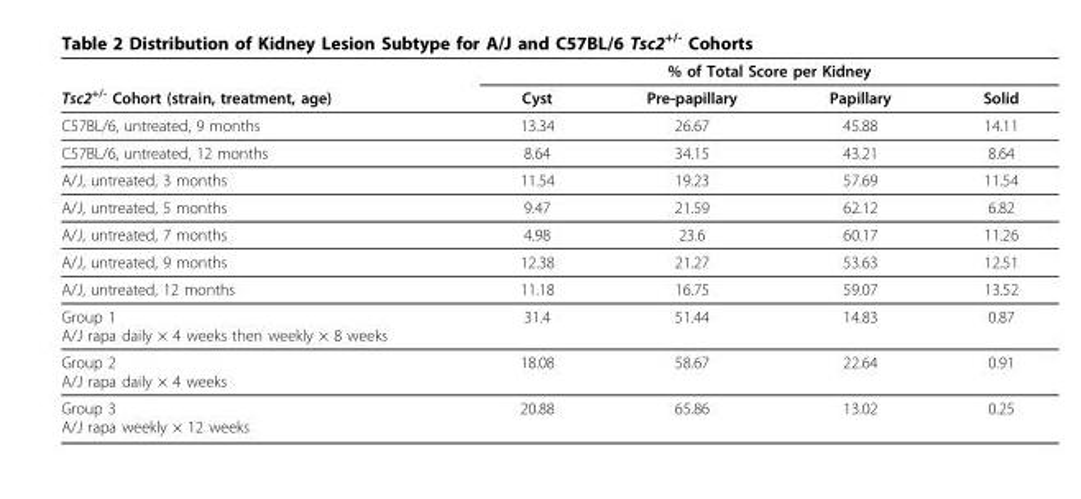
<table><thead><tr><td rowspan="2">Tsc2<sup>+/-</sup> Cohort (strain, treatment, age)</td><td colspan="4">% of Total Score per Kidney</td></tr><tr><td>Cyst</td><td>Pre-papillary</td><td>Papillary</td><td>Solid</td></tr></thead><tbody><tr><td>C57BL/6, untreated, 9 months</td><td>13.34</td><td>26.67</td><td>45.88</td><td>14.11</td></tr><tr><td>C57BL/6, untreated, 12 months</td><td>8.64</td><td>34.15</td><td>43.21</td><td>8.64</td></tr><tr><td>A/J, untreated, 3 months</td><td>11.54</td><td>19.23</td><td>57.69</td><td>11.54</td></tr><tr><td>A/J, untreated, 5 months</td><td>9.47</td><td>21.59</td><td>62.12</td><td>6.82</td></tr><tr><td>A/J, untreated, 7 months</td><td>4.98</td><td>23.6</td><td>60.17</td><td>11.26</td></tr><tr><td>A/J, untreated, 9 months</td><td>12.38</td><td>21.27</td><td>53.63</td><td>12.51</td></tr><tr><td>A/J, untreated, 12 months</td><td>11.18</td><td>16.75</td><td>59.07</td><td>13.52</td></tr><tr><td>Group 1 A/J rapa daily × 4 weeks then weekly × 8 weeks</td><td>31.4</td><td>51.44</td><td>14.83</td><td>0.87</td></tr><tr><td>Group 2 A/J rapa daily × 4 weeks</td><td>18.08</td><td>58.67</td><td>22.64</td><td>0.91</td></tr><tr><td>Group 3 A/J rapa weekly × 12 weeks</td><td>20.88</td><td>65.86</td><td>13.02</td><td>0.25</td></tr></tbody></table>